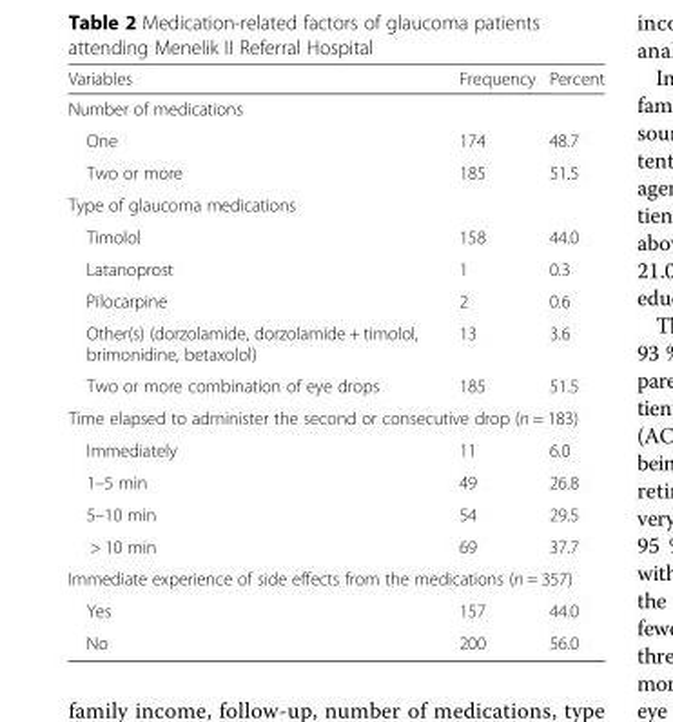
<table><thead><tr><td>Variables</td><td>Frequency</td><td>Percent</td></tr></thead><tbody><tr><td colspan="3">Number of medications</td></tr><tr><td>One</td><td>174</td><td>48.7</td></tr><tr><td>Two or more</td><td>185</td><td>51.5</td></tr><tr><td colspan="3">Type of glaucoma medications</td></tr><tr><td>Timolol</td><td>158</td><td>44.0</td></tr><tr><td>Latanoprost</td><td>1</td><td>0.3</td></tr><tr><td>Pilocarpine</td><td>2</td><td>0.6</td></tr><tr><td>Other(s) (dorzolamide, dorzolamide + timolol, brimonidine, betaxolol)</td><td>13</td><td>3.6</td></tr><tr><td>Two or more combination of eye drops</td><td>185</td><td>51.5</td></tr><tr><td colspan="3">Time elapsed to administer the second or consecutive drop (n = 183)</td></tr><tr><td>Immediately</td><td>11</td><td>6.0</td></tr><tr><td>1–5 min</td><td>49</td><td>26.8</td></tr><tr><td>5–10 min</td><td>54</td><td>29.5</td></tr><tr><td>&gt; 10 min</td><td>69</td><td>37.7</td></tr><tr><td colspan="3">Immediate experience of side effects from the medications (n = 357)</td></tr><tr><td>Yes</td><td>157</td><td>44.0</td></tr><tr><td>No</td><td>200</td><td>56.0</td></tr></tbody></table>